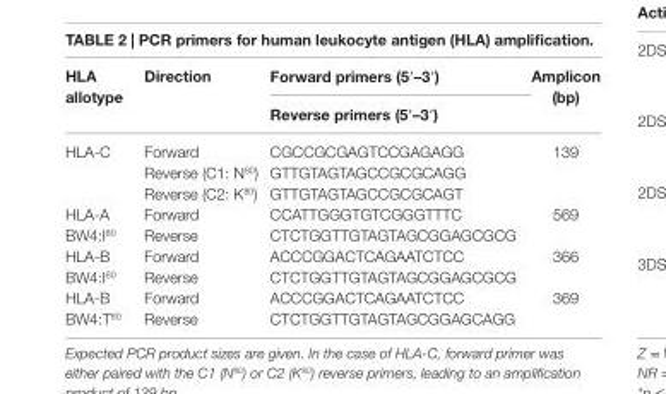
<table><thead><tr><td rowspan="2">hla allotype</td><td rowspan="2">Direction</td><td rowspan="2">Forward primers (5′–3′) reverse primers (5′–3′)</td><td rowspan="2">amplicon (bp)</td></tr><tr></tr></thead><tbody><tr><td rowspan="3">HLA-C</td><td>Forward</td><td>CGCCGCGAGTCCGAGAGG</td><td rowspan="3">139</td></tr><tr><td>Reverse (C1: N<sup>80</sup>)</td><td>GTTGTAGTAGCCGCGCAGG</td></tr><tr><td>Reverse (C2: K<sup>80</sup>)</td><td>GTTGTAGTAGCCGCGCAGT</td></tr><tr><td rowspan="2">HLA-A BW4:I<sup>80</sup></td><td>Forward</td><td>CCATTGGGTGTCGGGTTTC</td><td rowspan="2">569</td></tr><tr><td>Reverse</td><td>CTCTGGTTGTAGTAGCGGAGCGCG</td></tr><tr><td rowspan="2">HLA-B BW4:I<sup>80</sup></td><td>Forward</td><td>ACCCGGACTCAGAATCTCC</td><td rowspan="2">366</td></tr><tr><td>Reverse</td><td>CTCTGGTTGTAGTAGCGGAGCGCG</td></tr><tr><td rowspan="2">HLA-B BW4:T<sup>80</sup></td><td>Forward</td><td>ACCCGGACTCAGAATCTCC</td><td rowspan="2">369</td></tr><tr><td>Reverse</td><td>CTCTGGTTGTAGTAGCGGAGCAGG</td></tr></tbody></table>